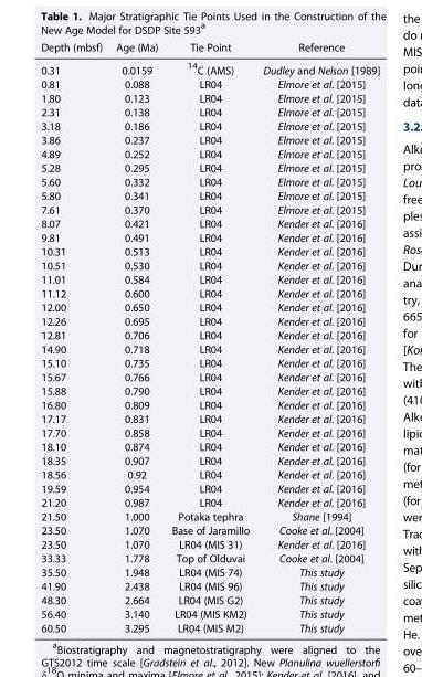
<table><thead><tr><td>Depth (mbsf)</td><td>Age (Ma)</td><td>Tie Point</td><td>Reference</td></tr></thead><tbody><tr><td>0.31</td><td>0.0159</td><td><sup>14</sup>C (AMS)</td><td>Dudley and Nelson [1989]</td></tr><tr><td>0.81</td><td>0.088</td><td>LR04</td><td>Elmore et al. [2015]</td></tr><tr><td>1.80</td><td>0.123</td><td>LR04</td><td>Elmore et al. [2015]</td></tr><tr><td>2.31</td><td>0.138</td><td>LR04</td><td>Elmore et al. [2015]</td></tr><tr><td>3.18</td><td>0.186</td><td>LR04</td><td>Elmore et al. [2015]</td></tr><tr><td>3.86</td><td>0.237</td><td>LR04</td><td>Elmore et al. [2015]</td></tr><tr><td>4.89</td><td>0.252</td><td>LR04</td><td>Elmore et al. [2015]</td></tr><tr><td>5.28</td><td>0.295</td><td>LR04</td><td>Elmore et al. [2015]</td></tr><tr><td>5.60</td><td>0.332</td><td>LR04</td><td>Elmore et al. [2015]</td></tr><tr><td>5.80</td><td>0.341</td><td>LR04</td><td>Elmore et al. [2015]</td></tr><tr><td>7.61</td><td>0.370</td><td>LR04</td><td>Elmore et al. [2015]</td></tr><tr><td>8.07</td><td>0.421</td><td>LR04</td><td>Kender et al. [2016]</td></tr><tr><td>9.81</td><td>0.491</td><td>LR04</td><td>Kender et al. [2016]</td></tr><tr><td>10.31</td><td>0.513</td><td>LR04</td><td>Kender et al. [2016]</td></tr><tr><td>10.51</td><td>0.530</td><td>LR04</td><td>Kender et al. [2016]</td></tr><tr><td>11.01</td><td>0.584</td><td>LR04</td><td>Kender et al. [2016]</td></tr><tr><td>11.12</td><td>0.600</td><td>LR04</td><td>Kender et al. [2016]</td></tr><tr><td>12.00</td><td>0.650</td><td>LR04</td><td>Kender et al. [2016]</td></tr><tr><td>12.26</td><td>0.695</td><td>LR04</td><td>Kender et al. [2016]</td></tr><tr><td>12.81</td><td>0.706</td><td>LR04</td><td>Kender et al. [2016]</td></tr><tr><td>14.90</td><td>0.718</td><td>LR04</td><td>Kender et al. [2016]</td></tr><tr><td>15.10</td><td>0.735</td><td>LR04</td><td>Kender et al. [2016]</td></tr><tr><td>15.67</td><td>0.766</td><td>LR04</td><td>Kender et al. [2016]</td></tr><tr><td>15.88</td><td>0.790</td><td>LR04</td><td>Kender et al. [2016]</td></tr><tr><td>16.80</td><td>0.809</td><td>LR04</td><td>Kender et al. [2016]</td></tr><tr><td>17.17</td><td>0.831</td><td>LR04</td><td>Kender et al. [2016]</td></tr><tr><td>17.70</td><td>0.858</td><td>LR04</td><td>Kender et al. [2016]</td></tr><tr><td>18.10</td><td>0.874</td><td>LR04</td><td>Kender et al. [2016]</td></tr><tr><td>18.35</td><td>0.907</td><td>LR04</td><td>Kender et al. [2016]</td></tr><tr><td>18.56</td><td>0.92</td><td>LR04</td><td>Kender et al. [2016]</td></tr><tr><td>19.59</td><td>0.954</td><td>LR04</td><td>Kender et al. [2016]</td></tr><tr><td>21.20</td><td>0.987</td><td>LR04</td><td>Kender et al. [2016]</td></tr><tr><td>21.50</td><td>1.000</td><td>Potaka tephra</td><td>Shane [1994]</td></tr><tr><td>23.50</td><td>1.070</td><td>Base of Jaramillo</td><td>Cooke et al. [2004]</td></tr><tr><td>23.50</td><td>1.070</td><td>LR04 (MIS 31)</td><td>Kender et al. [2016]</td></tr><tr><td>33.33</td><td>1.778</td><td>Top of Olduvai</td><td>Cooke et al. [2004]</td></tr><tr><td>35.50</td><td>1.948</td><td>LR04 (MIS 74)</td><td>This study</td></tr><tr><td>41.90</td><td>2.438</td><td>LR04 (MIS 96)</td><td>This study</td></tr><tr><td>48.30</td><td>2.664</td><td>LR04 (MIS G2)</td><td>This study</td></tr><tr><td>56.40</td><td>3.140</td><td>LR04 (MIS KM2)</td><td>This study</td></tr><tr><td>60.50</td><td>3.295</td><td>LR04 (MIS M2)</td><td>This study</td></tr></tbody></table>